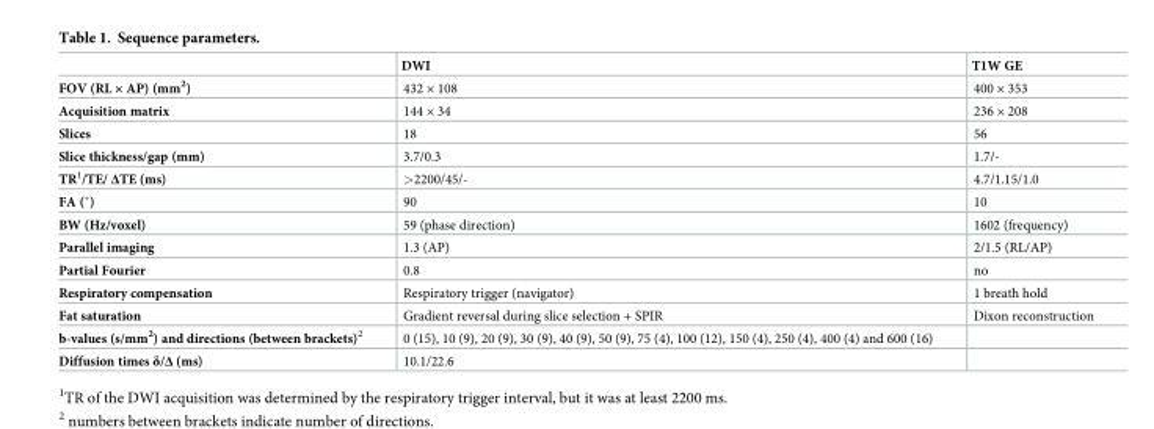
<table><thead><tr><td></td><td>DWI</td><td>T1W GE</td></tr></thead><tbody><tr><td>FOV (RL × AP) (mm<sup>2</sup>)</td><td>432 × 108</td><td>400 × 353</td></tr><tr><td>Acquisition matrix</td><td>144 × 34</td><td>236 × 208</td></tr><tr><td>Slices</td><td>18</td><td>56</td></tr><tr><td>Slice thickness/gap (mm)</td><td>3.7/0.3</td><td>1.7/-</td></tr><tr><td>TR<sup>1</sup>/TE/ ΔTE (ms)</td><td>&gt;2200/45/-</td><td>4.7/1.15/1.0</td></tr><tr><td>FA (˚)</td><td>90</td><td>10</td></tr><tr><td>BW (Hz/voxel)</td><td>59 (phase direction)</td><td>1602 (frequency)</td></tr><tr><td>Parallel imaging</td><td>1.3 (AP)</td><td>2/1.5 (RL/AP)</td></tr><tr><td>Partial Fourier</td><td>0.8</td><td>no</td></tr><tr><td>Respiratory compensation</td><td>Respiratory trigger (navigator)</td><td>1 breath hold</td></tr><tr><td>Fat saturation</td><td>Gradient reversal during slice selection + SPIR</td><td>Dixon reconstruction</td></tr><tr><td>b-values (s/mm<sup>2</sup>) and directions (between brackets)<sup>2</sup></td><td>0 (15), 10 (9), 20 (9), 30 (9), 40 (9), 50 (9), 75 (4), 100 (12), 150 (4), 250 (4), 400 (4) and 600 (16)</td><td></td></tr><tr><td>Diffusion times δ/Δ (ms)</td><td>10.1/22.6</td><td></td></tr></tbody></table>